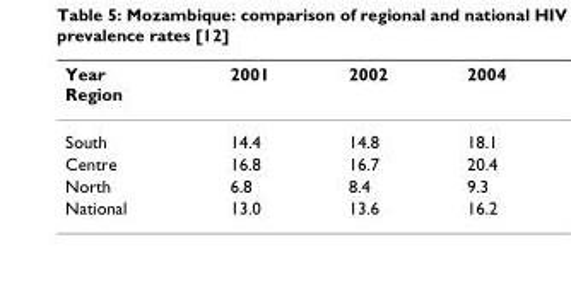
<table><thead><tr><td>Year Region</td><td>2001</td><td>2002</td><td>2004</td></tr></thead><tbody><tr><td>South</td><td>14.4</td><td>14.8</td><td>18.1</td></tr><tr><td>Centre</td><td>16.8</td><td>16.7</td><td>20.4</td></tr><tr><td>North</td><td>6.8</td><td>8.4</td><td>9.3</td></tr><tr><td>National</td><td>13.0</td><td>13.6</td><td>16.2</td></tr></tbody></table>